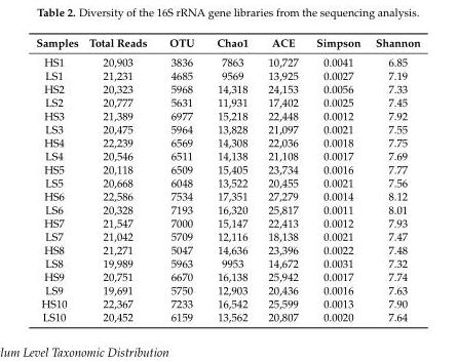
<table><thead><tr><td>Samples</td><td>Total Reads</td><td>OTU</td><td>Chao1</td><td>ACE</td><td>Simpson</td><td>Shannon</td></tr></thead><tbody><tr><td>HS1</td><td>20,903</td><td>3836</td><td>7863</td><td>10,727</td><td>0.0041</td><td>6.85</td></tr><tr><td>LS1</td><td>21,231</td><td>4685</td><td>9569</td><td>13,925</td><td>0.0027</td><td>7.19</td></tr><tr><td>HS2</td><td>20,323</td><td>5968</td><td>14,318</td><td>24,153</td><td>0.0056</td><td>7.33</td></tr><tr><td>LS2</td><td>20,777</td><td>5631</td><td>11,931</td><td>17,402</td><td>0.0025</td><td>7.45</td></tr><tr><td>HS3</td><td>21,389</td><td>6977</td><td>15,218</td><td>22,448</td><td>0.0012</td><td>7.92</td></tr><tr><td>LS3</td><td>20,475</td><td>5964</td><td>13,828</td><td>21,097</td><td>0.0021</td><td>7.55</td></tr><tr><td>HS4</td><td>22,239</td><td>6569</td><td>14,308</td><td>22,036</td><td>0.0018</td><td>7.75</td></tr><tr><td>LS4</td><td>20,546</td><td>6511</td><td>14,138</td><td>21,108</td><td>0.0017</td><td>7.69</td></tr><tr><td>HS5</td><td>20,118</td><td>6509</td><td>15,405</td><td>23,734</td><td>0.0016</td><td>7.77</td></tr><tr><td>LS5</td><td>20,668</td><td>6048</td><td>13,522</td><td>20,455</td><td>0.0021</td><td>7.56</td></tr><tr><td>HS6</td><td>22,586</td><td>7534</td><td>17,351</td><td>27,279</td><td>0.0014</td><td>8.12</td></tr><tr><td>LS6</td><td>20,328</td><td>7193</td><td>16,320</td><td>25,817</td><td>0.0011</td><td>8.01</td></tr><tr><td>HS7</td><td>21,547</td><td>7000</td><td>15,147</td><td>22,413</td><td>0.0012</td><td>7.93</td></tr><tr><td>LS7</td><td>21,042</td><td>5709</td><td>12,116</td><td>18,138</td><td>0.0021</td><td>7.47</td></tr><tr><td>HS8</td><td>21,271</td><td>5047</td><td>14,636</td><td>23,396</td><td>0.0022</td><td>7.48</td></tr><tr><td>LS8</td><td>19,989</td><td>5963</td><td>9953</td><td>14,672</td><td>0.0031</td><td>7.32</td></tr><tr><td>HS9</td><td>20,751</td><td>6670</td><td>16,138</td><td>25,942</td><td>0.0017</td><td>7.74</td></tr><tr><td>LS9</td><td>19,691</td><td>5750</td><td>12,903</td><td>20,436</td><td>0.0016</td><td>7.63</td></tr><tr><td>HS10</td><td>22,367</td><td>7233</td><td>16,542</td><td>25,599</td><td>0.0013</td><td>7.90</td></tr><tr><td>LS10</td><td>20,452</td><td>6159</td><td>13,562</td><td>20,807</td><td>0.0020</td><td>7.64</td></tr></tbody></table>